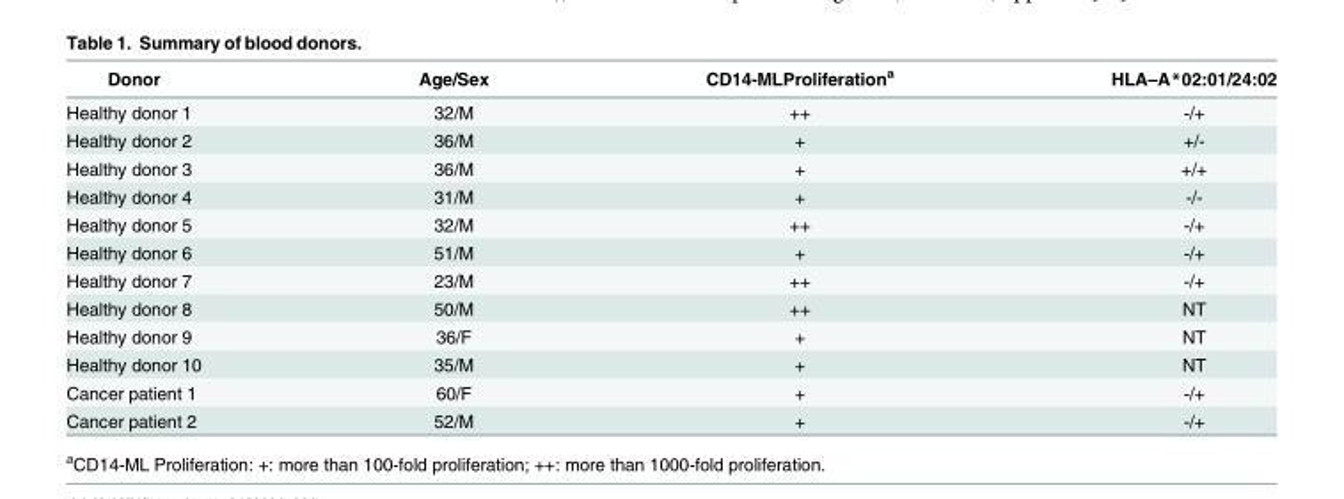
<table><thead><tr><td>Donor</td><td>Age/Sex</td><td>CD14-MLProliferation<sup>a</sup></td><td>HLA–A*02:01/24:02</td></tr></thead><tbody><tr><td>Healthy donor 1</td><td>32/M</td><td>++</td><td>-/+</td></tr><tr><td>Healthy donor 2</td><td>36/M</td><td>+</td><td>+/-</td></tr><tr><td>Healthy donor 3</td><td>36/M</td><td>+</td><td>+/+</td></tr><tr><td>Healthy donor 4</td><td>31/M</td><td>+</td><td>-/-</td></tr><tr><td>Healthy donor 5</td><td>32/M</td><td>++</td><td>-/+</td></tr><tr><td>Healthy donor 6</td><td>51/M</td><td>+</td><td>-/+</td></tr><tr><td>Healthy donor 7</td><td>23/M</td><td>++</td><td>-/+</td></tr><tr><td>Healthy donor 8</td><td>50/M</td><td>++</td><td>NT</td></tr><tr><td>Healthy donor 9</td><td>36/F</td><td>+</td><td>NT</td></tr><tr><td>Healthy donor 10</td><td>35/M</td><td>+</td><td>NT</td></tr><tr><td>Cancer patient 1</td><td>60/F</td><td>+</td><td>-/+</td></tr><tr><td>Cancer patient 2</td><td>52/M</td><td>+</td><td>-/+</td></tr></tbody></table>